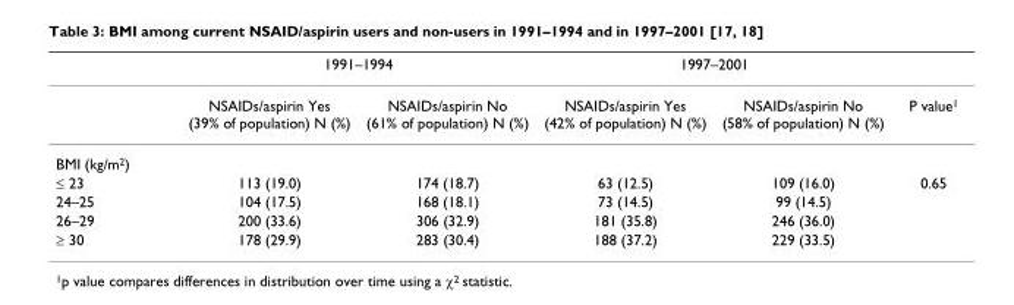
<table><thead><tr><td rowspan="2"></td><td colspan="2">1991–1994</td><td colspan="2">1997–2001</td><td rowspan="2">P value<sup>1</sup></td></tr><tr><td>NSAIDs/aspirin Yes (39% of population) N (%)</td><td>NSAIDs/aspirin No (61% of population) N (%)</td><td>NSAIDs/aspirin Yes (42% of population) N (%)</td><td>NSAIDs/aspirin No (58% of population) N (%)</td></tr></thead><tbody><tr><td colspan="6">BMI (kg/m<sup>2</sup>)</td></tr><tr><td>≤ 23</td><td>113 (19.0)</td><td>174 (18.7)</td><td>63 (12.5)</td><td>109 (16.0)</td><td>0.65</td></tr><tr><td>24–25</td><td>104 (17.5)</td><td>168 (18.1)</td><td>73 (14.5)</td><td>99 (14.5)</td><td></td></tr><tr><td>26–29</td><td>200 (33.6)</td><td>306 (32.9)</td><td>181 (35.8)</td><td>246 (36.0)</td><td></td></tr><tr><td>≥ 30</td><td>178 (29.9)</td><td>283 (30.4)</td><td>188 (37.2)</td><td>229 (33.5)</td><td></td></tr></tbody></table>